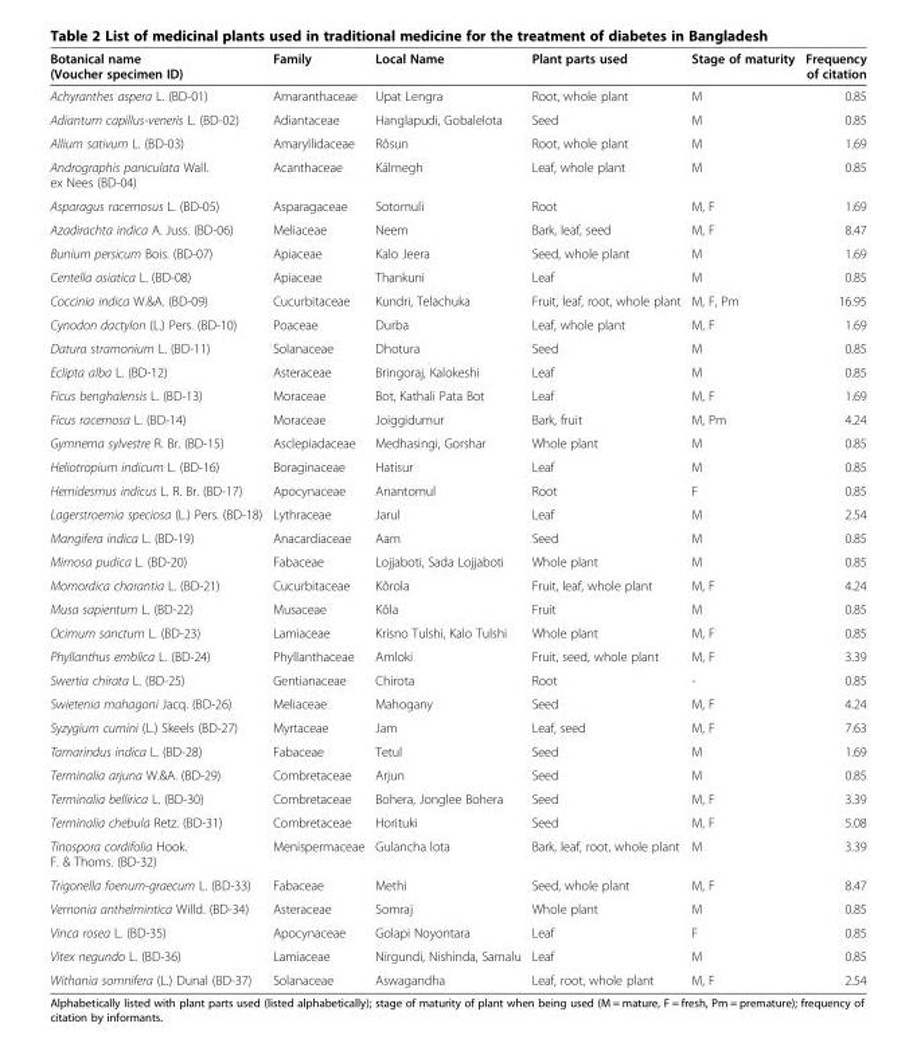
<table><thead><tr><td>Botanical name (Voucher specimen ID)</td><td>Family</td><td>Local Name</td><td>Plant parts used</td><td>Stage of maturity</td><td>Frequency of citation</td></tr></thead><tbody><tr><td>Achyranthes aspera L. (BD-01)</td><td>Amaranthaceae</td><td>Upat Lengra</td><td>Root, whole plant</td><td>M</td><td>0.85</td></tr><tr><td>Adiantum capillus-veneris L. (BD-02)</td><td>Adiantaceae</td><td>Hanglapudi, Gobalelota</td><td>Seed</td><td>M</td><td>0.85</td></tr><tr><td>Allium sativum L. (BD-03)</td><td>Amaryllidaceae</td><td>Rôsun</td><td>Root, whole plant</td><td>M</td><td>1.69</td></tr><tr><td>Andrographis paniculata Wall. ex Nees (BD-04)</td><td>Acanthaceae</td><td>Kālmegh</td><td>Leaf, whole plant</td><td>M</td><td>0.85</td></tr><tr><td>Asparagus racemosus L. (BD-05)</td><td>Asparagaceae</td><td>Sotomuli</td><td>Root</td><td>M, F</td><td>1.69</td></tr><tr><td>Azadirachta indica A. Juss. (BD-06)</td><td>Meliaceae</td><td>Neem</td><td>Bark, leaf, seed</td><td>M, F</td><td>8.47</td></tr><tr><td>Bunium persicum Bois. (BD-07)</td><td>Apiaceae</td><td>Kalo Jeera</td><td>Seed, whole plant</td><td>M</td><td>1.69</td></tr><tr><td>Centella asiatica L. (BD-08)</td><td>Apiaceae</td><td>Thankuni</td><td>Leaf</td><td>M</td><td>0.85</td></tr><tr><td>Coccinia indica W.&amp;A. (BD-09)</td><td>Cucurbitaceae</td><td>Kundri, Telachuka</td><td>Fruit, leaf, root, whole plant</td><td>M, F, Pm</td><td>16.95</td></tr><tr><td>Cynodon dactylon (L.) Pers. (BD-10)</td><td>Poaceae</td><td>Durba</td><td>Leaf, whole plant</td><td>M, F</td><td>1.69</td></tr><tr><td>Datura stramonium L. (BD-11)</td><td>Solanaceae</td><td>Dhotura</td><td>Seed</td><td>M</td><td>0.85</td></tr><tr><td>Eclipta alba L. (BD-12)</td><td>Asteraceae</td><td>Bringoraj, Kalokeshi</td><td>Leaf</td><td>M</td><td>0.85</td></tr><tr><td>Ficus benghalensis L. (BD-13)</td><td>Moraceae</td><td>Bot, Kathali Pata Bot</td><td>Leaf</td><td>M, F</td><td>1.69</td></tr><tr><td>Ficus racemosa L. (BD-14)</td><td>Moraceae</td><td>Joiggidumur</td><td>Bark, fruit</td><td>M, Pm</td><td>4.24</td></tr><tr><td>Gymnema sylvestre R. Br. (BD-15)</td><td>Asclepiadaceae</td><td>Medhasingi, Gorshar</td><td>Whole plant</td><td>M</td><td>0.85</td></tr><tr><td>Heliotropium indicum L. (BD-16)</td><td>Boraginaceae</td><td>Hatisur</td><td>Leaf</td><td>M</td><td>0.85</td></tr><tr><td>Hemidesmus indicus L. R. Br. (BD-17)</td><td>Apocynaceae</td><td>Anantomul</td><td>Root</td><td>F</td><td>0.85</td></tr><tr><td>Lagerstroemia speciosa (L.) Pers. (BD-18)</td><td>Lythraceae</td><td>Jarul</td><td>Leaf</td><td>M</td><td>2.54</td></tr><tr><td>Mangifera indica L. (BD-19)</td><td>Anacardiaceae</td><td>Aam</td><td>Seed</td><td>M</td><td>0.85</td></tr><tr><td>Mimosa pudica L. (BD-20)</td><td>Fabaceae</td><td>Lojjaboti, Sada Lojjaboti</td><td>Whole plant</td><td>M</td><td>0.85</td></tr><tr><td>Momordica charantia L. (BD-21)</td><td>Cucurbitaceae</td><td>Kôrola</td><td>Fruit, leaf, whole plant</td><td>M, F</td><td>4.24</td></tr><tr><td>Musa sapientum L. (BD-22)</td><td>Musaceae</td><td>Kôla</td><td>Fruit</td><td>M</td><td>0.85</td></tr><tr><td>Ocimum sanctum L. (BD-23)</td><td>Lamiaceae</td><td>Krisno Tulshi, Kalo Tulshi</td><td>Whole plant</td><td>M, F</td><td>0.85</td></tr><tr><td>Phyllanthus emblica L. (BD-24)</td><td>Phyllanthaceae</td><td>Amloki</td><td>Fruit, seed, whole plant</td><td>M, F</td><td>3.39</td></tr><tr><td>Swertia chirata L. (BD-25)</td><td>Gentianaceae</td><td>Chirota</td><td>Root</td><td>-</td><td>0.85</td></tr><tr><td>Swietenia mahagoni Jacq. (BD-26)</td><td>Meliaceae</td><td>Mahogany</td><td>Seed</td><td>M, F</td><td>4.24</td></tr><tr><td>Syzygium cumini (L.) Skeels (BD-27)</td><td>Myrtaceae</td><td>Jam</td><td>Leaf, seed</td><td>M, F</td><td>7.63</td></tr><tr><td>Tamarindus indica L. (BD-28)</td><td>Fabaceae</td><td>Tetul</td><td>Seed</td><td>M</td><td>1.69</td></tr><tr><td>Terminalia arjuna W.&amp;A. (BD-29)</td><td>Combretaceae</td><td>Arjun</td><td>Seed</td><td>M</td><td>0.85</td></tr><tr><td>Terminalia bellirica L. (BD-30)</td><td>Combretaceae</td><td>Bohera, Jonglee Bohera</td><td>Seed</td><td>M, F</td><td>3.39</td></tr><tr><td>Terminalia chebula Retz. (BD-31)</td><td>Combretaceae</td><td>Horituki</td><td>Seed</td><td>M, F</td><td>5.08</td></tr><tr><td>Tinospora cordifolia Hook. F. &amp; Thoms. (BD-32)</td><td>Menispermaceae</td><td>Gulancha lota</td><td>Bark, leaf, root, whole plant</td><td>M</td><td>3.39</td></tr><tr><td>Trigonella foenum-graecum L. (BD-33)</td><td>Fabaceae</td><td>Methi</td><td>Seed, whole plant</td><td>M, F</td><td>8.47</td></tr><tr><td>Vernonia anthelmintica Willd. (BD-34)</td><td>Asteraceae</td><td>Somraj</td><td>Whole plant</td><td>M</td><td>0.85</td></tr><tr><td>Vinca rosea L. (BD-35)</td><td>Apocynaceae</td><td>Golapi Noyontara</td><td>Leaf</td><td>F</td><td>0.85</td></tr><tr><td>Vitex negundo L. (BD-36)</td><td>Lamiaceae</td><td>Nirgundi, Nishinda, Samalu</td><td>Leaf</td><td>M</td><td>0.85</td></tr><tr><td>Withania somnifera (L.) Dunal (BD-37)</td><td>Solanaceae</td><td>Aswagandha</td><td>Leaf, root, whole plant</td><td>M, F</td><td>2.54</td></tr></tbody></table>